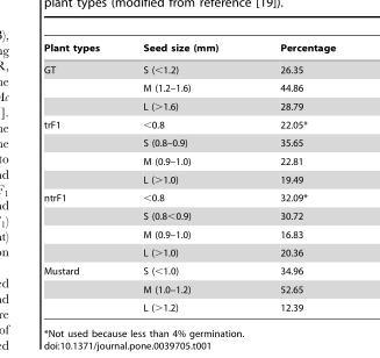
<table><thead><tr><td>Plant types</td><td>Seed size (mm)</td><td>Percentage</td></tr></thead><tbody><tr><td rowspan="3">GT</td><td>S (&lt;1.2)</td><td>26.35</td></tr><tr><td>M (1.2–1.6)</td><td>44.86</td></tr><tr><td>L (&gt;1.6)</td><td>28.79</td></tr><tr><td rowspan="4">trF1</td><td>&lt;0.8</td><td>22.05*</td></tr><tr><td>S (0.8–0.9)</td><td>35.65</td></tr><tr><td>M (0.9–1.0)</td><td>22.81</td></tr><tr><td>L (&gt;1.0)</td><td>19.49</td></tr><tr><td rowspan="4">ntrF1</td><td>&lt;0.8</td><td>32.09*</td></tr><tr><td>S (0.8&lt;0.9)</td><td>30.72</td></tr><tr><td>M (0.9–1.0)</td><td>16.83</td></tr><tr><td>L (&gt;1.0)</td><td>20.36</td></tr><tr><td rowspan="3">Mustard</td><td>S (&lt;1.0)</td><td>34.96</td></tr><tr><td>M (1.0–1.2)</td><td>52.65</td></tr><tr><td>L (&gt;1.2)</td><td>12.39</td></tr></tbody></table>